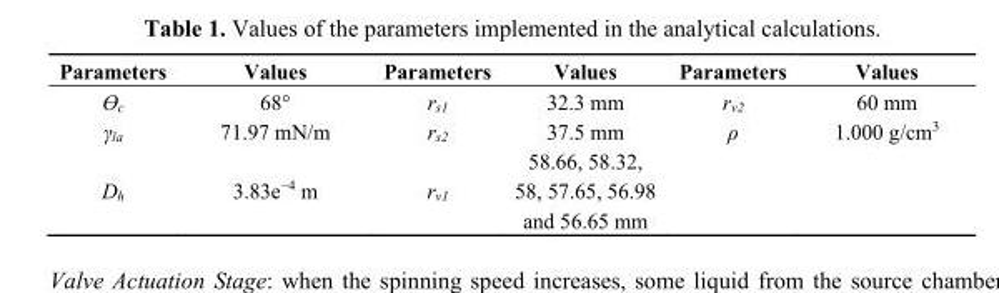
<table><thead><tr><td>Parameters</td><td>Values</td><td>Parameters</td><td>Values</td><td>Parameters</td><td>Values</td></tr></thead><tbody><tr><td>Ɵ<sub>c</sub></td><td>68°</td><td>r<sub>s1</sub></td><td>32.3 mm</td><td>r<sub>v2</sub></td><td>60 mm</td></tr><tr><td>γ<sub>la</sub></td><td>71.97 mN/m</td><td>r<sub>s2</sub></td><td>37.5 mm</td><td>ρ</td><td>1.000 g/cm<sup>3</sup></td></tr><tr><td>D<sub>h</sub></td><td>3.83e<sup>−4</sup> m</td><td>r<sub>v1</sub></td><td>58.66, 58.32, 58, 57.65, 56.98 and 56.65 mm</td><td></td><td></td></tr></tbody></table>